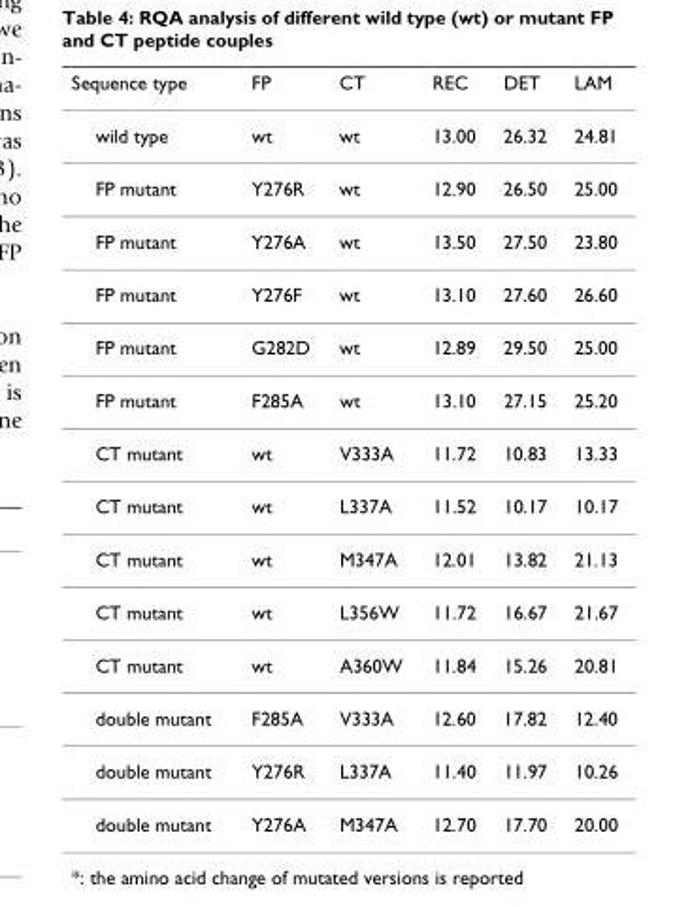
<table><thead><tr><td>Sequence type</td><td>FP</td><td>CT</td><td>REC</td><td>DET</td><td>LAM</td></tr></thead><tbody><tr><td>wild type</td><td>wt</td><td>wt</td><td>13.00</td><td>26.32</td><td>24.81</td></tr><tr><td>FP mutant</td><td>Y276R</td><td>wt</td><td>12.90</td><td>26.50</td><td>25.00</td></tr><tr><td>FP mutant</td><td>Y276A</td><td>wt</td><td>13.50</td><td>27.50</td><td>23.80</td></tr><tr><td>FP mutant</td><td>Y276F</td><td>wt</td><td>13.10</td><td>27.60</td><td>26.60</td></tr><tr><td>FP mutant</td><td>G282D</td><td>wt</td><td>12.89</td><td>29.50</td><td>25.00</td></tr><tr><td>FP mutant</td><td>F285A</td><td>wt</td><td>13.10</td><td>27.15</td><td>25.20</td></tr><tr><td>CT mutant</td><td>wt</td><td>V333A</td><td>11.72</td><td>10.83</td><td>13.33</td></tr><tr><td>CT mutant</td><td>wt</td><td>L337A</td><td>11.52</td><td>10.17</td><td>10.17</td></tr><tr><td>CT mutant</td><td>wt</td><td>M347A</td><td>12.01</td><td>13.82</td><td>21.13</td></tr><tr><td>CT mutant</td><td>wt</td><td>L356W</td><td>11.72</td><td>16.67</td><td>21.67</td></tr><tr><td>CT mutant</td><td>wt</td><td>A360W</td><td>11.84</td><td>15.26</td><td>20.81</td></tr><tr><td>double mutant</td><td>F285A</td><td>V333A</td><td>12.60</td><td>17.82</td><td>12.40</td></tr><tr><td>double mutant</td><td>Y276R</td><td>L337A</td><td>11.40</td><td>11.97</td><td>10.26</td></tr><tr><td>double mutant</td><td>Y276A</td><td>M347A</td><td>12.70</td><td>17.70</td><td>20.00</td></tr></tbody></table>